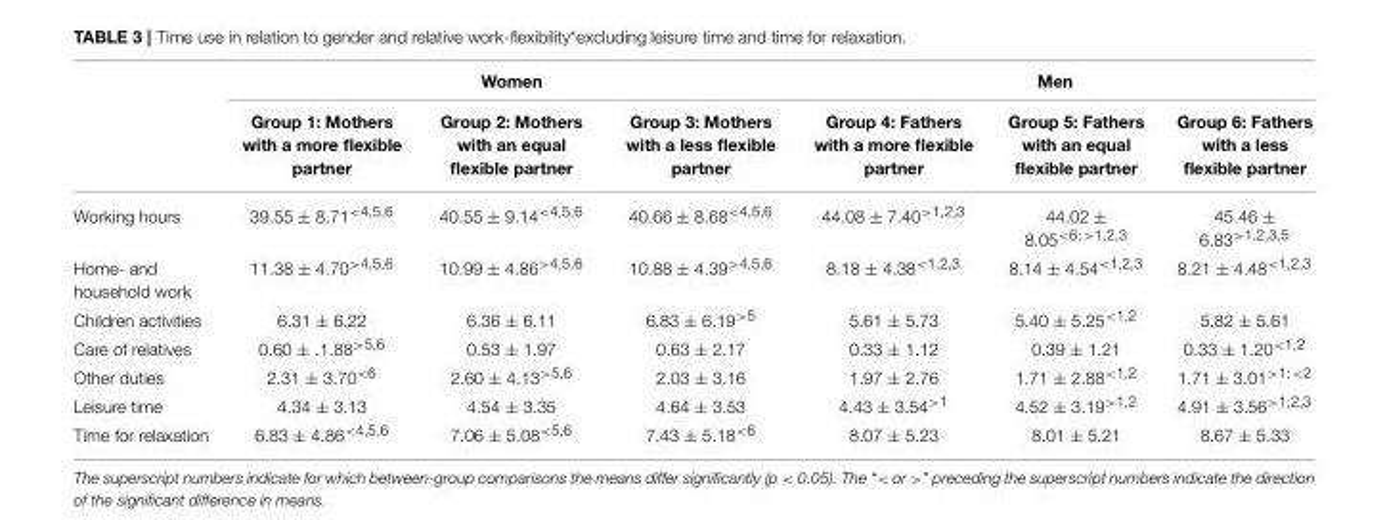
<table><thead><tr><td rowspan="2"></td><td colspan="3">Women</td><td colspan="3">Men</td></tr><tr><td>Group 1: Mothers with a more flexible partner</td><td>Group 2: Mothers with an equal flexible partner</td><td>Group 3: Mothers with a less flexible partner</td><td>Group 4: Fathers with a more flexible partner</td><td>Group 5: Fathers with an equal flexible partner</td><td>Group 6: Fathers with a less flexible partner</td></tr></thead><tbody><tr><td>Working hours</td><td>39.55 ± 8.71<sup>&lt;4,5,6</sup></td><td>40.55 ± 9.14<sup>&lt;4,5,6</sup></td><td>40.66 ± 8.68<sup>&lt;4,5,6</sup></td><td>44.08 ± 7.40<sup>&gt;1,2,3</sup></td><td>44.02 ± 8.05<sup>&lt;6;&gt;1,2,3</sup></td><td>45.46 ± 6.83<sup>&gt;1,2,3,5</sup></td></tr><tr><td>Home- and household work</td><td>11.38 ± 4.70<sup>&gt;4,5,6</sup></td><td>10.99 ± 4.86<sup>&gt;4,5,6</sup></td><td>10.88 ± 4.39<sup>&gt;4,5,6</sup></td><td>8.18 ± 4.38<sup>&lt;1,2,3</sup></td><td>8.14 ± 4.54<sup>&lt;1,2,3</sup></td><td>8.21 ± 4.48<sup>&lt;1,2,3</sup></td></tr><tr><td>Children activities</td><td>6.31 ± 6.22</td><td>6.36 ± 6.11</td><td>6.83 ± 6.19<sup>&gt;5</sup></td><td>5.61 ± 5.73</td><td>5.40 ± 5.25<sup>&lt;1,2</sup></td><td>5.82 ± 5.61</td></tr><tr><td>Care of relatives</td><td>0.60 ± .1.88<sup>&gt;5,6</sup></td><td>0.53 ± 1.97</td><td>0.63 ± 2.17</td><td>0.33 ± 1.12</td><td>0.39 ± 1.21</td><td>0.33 ± 1.20<sup>&lt;1,2</sup></td></tr><tr><td>Other duties</td><td>2.31 ± 3.70<sup>&lt;6</sup></td><td>2.60 ± 4.13<sup>&gt;5,6</sup></td><td>2.03 ± 3.16</td><td>1.97 ± 2.76</td><td>1.71 ± 2.88<sup>&lt;1,2</sup></td><td>1.71 ± 3.01<sup>&gt;1;&lt;2</sup></td></tr><tr><td>Leisure time</td><td>4.34 ± 3.13</td><td>4.54 ± 3.35</td><td>4.64 ± 3.53</td><td>4.43 ± 3.54<sup>&gt;1</sup></td><td>4.52 ± 3.19<sup>&gt;1,2</sup></td><td>4.91 ± 3.56<sup>&gt;1,2,3</sup></td></tr><tr><td>Time for relaxation</td><td>6.83 ± 4.86<sup>&lt;4,5,6</sup></td><td>7.06 ± 5.08<sup>&lt;5,6</sup></td><td>7.43 ± 5.18<sup>&lt;6</sup></td><td>8.07 ± 5.23</td><td>8.01 ± 5.21</td><td>8.67 ± 5.33</td></tr></tbody></table>